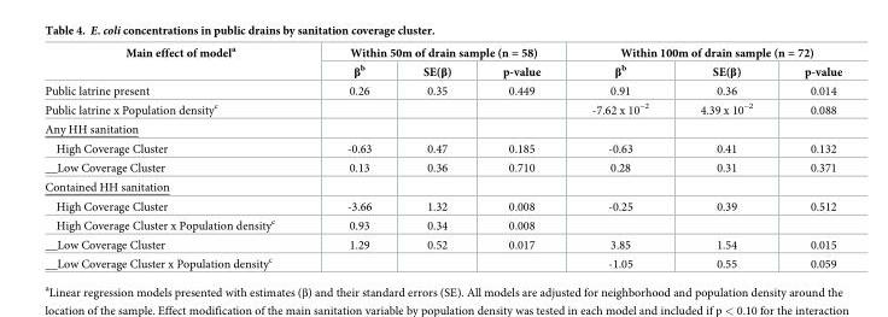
<table><thead><tr><td rowspan="2">Main effect of model<sup>a</sup></td><td colspan="3">Within 50m of drain sample (n = 58)</td><td colspan="3">Within 100m of drain sample (n = 72)</td></tr><tr><td>β<sup>b</sup></td><td>SE(β)</td><td>p-value</td><td>β<sup>b</sup></td><td>SE(β)</td><td>p-value</td></tr></thead><tbody><tr><td>Public latrine present</td><td>0.26</td><td>0.35</td><td>0.449</td><td>0.91</td><td>0.36</td><td>0.014</td></tr><tr><td>Public latrine x Population density<sup>c</sup></td><td></td><td></td><td></td><td>-7.62 x 10<sup>−2</sup></td><td>4.39 x 10<sup>−2</sup></td><td>0.088</td></tr><tr><td colspan="7">Any HH sanitation</td></tr><tr><td>High Coverage Cluster</td><td>-0.63</td><td>0.47</td><td>0.185</td><td>-0.63</td><td>0.41</td><td>0.132</td></tr><tr><td>__Low Coverage Cluster</td><td>0.13</td><td>0.36</td><td>0.710</td><td>0.28</td><td>0.31</td><td>0.371</td></tr><tr><td colspan="7">Contained HH sanitation</td></tr><tr><td>High Coverage Cluster</td><td>-3.66</td><td>1.32</td><td>0.008</td><td>-0.25</td><td>0.39</td><td>0.512</td></tr><tr><td>High Coverage Cluster x Population density<sup>c</sup></td><td>0.93</td><td>0.34</td><td>0.008</td><td></td><td></td><td></td></tr><tr><td>__Low Coverage Cluster</td><td>1.29</td><td>0.52</td><td>0.017</td><td>3.85</td><td>1.54</td><td>0.015</td></tr><tr><td>__Low Coverage Cluster x Population densityc</td><td></td><td></td><td></td><td>-1.05</td><td>0.55</td><td>0.059</td></tr></tbody></table>